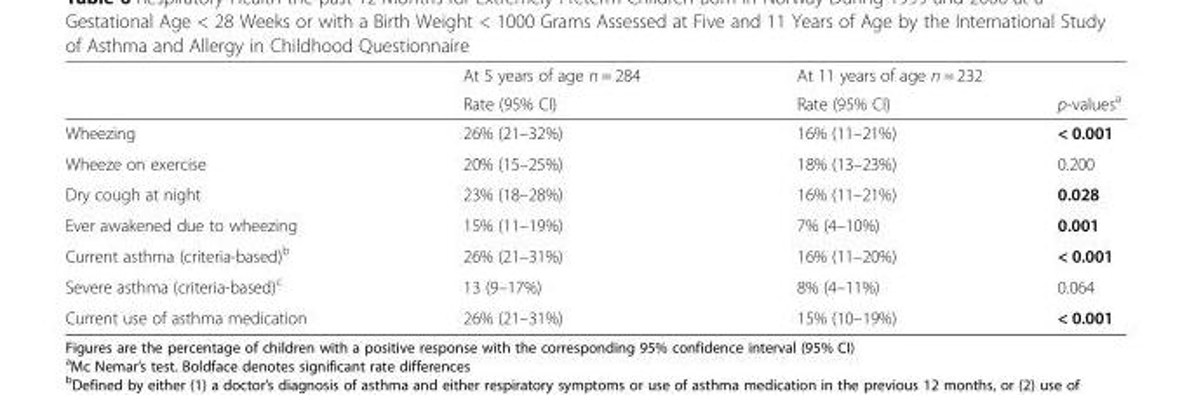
<table><thead><tr><td rowspan="2"></td><td rowspan="2">At 5 years of age n = 284 Rate (95% CI)</td><td colspan="2">At 11 years of age n = 232</td></tr><tr><td>Rate (95% CI)</td><td>p-values<sup>a</sup></td></tr></thead><tbody><tr><td>Wheezing</td><td>26% (21–32%)</td><td>16% (11–21%)</td><td>&lt; 0.001</td></tr><tr><td>Wheeze on exercise</td><td>20% (15–25%)</td><td>18% (13–23%)</td><td>0.200</td></tr><tr><td>Dry cough at night</td><td>23% (18–28%)</td><td>16% (11–21%)</td><td>0.028</td></tr><tr><td>Ever awakened due to wheezing</td><td>15% (11–19%)</td><td>7% (4–10%)</td><td>0.001</td></tr><tr><td>Current asthma (criteria-based)<sup>b</sup></td><td>26% (21–31%)</td><td>16% (11–20%)</td><td>&lt; 0.001</td></tr><tr><td>Severe asthma (criteria-based)<sup>c</sup></td><td>13 (9–17%)</td><td>8% (4–11%)</td><td>0.064</td></tr><tr><td>Current use of asthma medication</td><td>26% (21–31%)</td><td>15% (10–19%)</td><td>&lt; 0.001</td></tr></tbody></table>